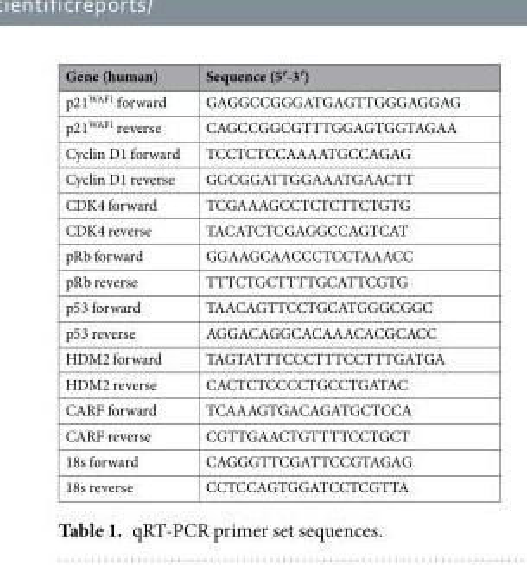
<table><thead><tr><td>Gene (human)</td><td>Sequence (5′-3′)</td></tr></thead><tbody><tr><td>p21<sup>WAF1</sup> forward</td><td>GAGGCCGGGATGAGTTGGGAGGAG</td></tr><tr><td>p21<sup>WAF1</sup> reverse</td><td>CAGCCGGCGTTTGGAGTGGTAGAA</td></tr><tr><td>Cyclin D1 forward</td><td>TCCTCTCCAAAATGCCAGAG</td></tr><tr><td>Cyclin D1 reverse</td><td>GGCGGATTGGAAATGAACTT</td></tr><tr><td>CDK4 forward</td><td>TCGAAAGCCTCTCTTCTGTG</td></tr><tr><td>CDK4 reverse</td><td>TACATCTCGAGGCCAGTCAT</td></tr><tr><td>pRb forward</td><td>GGAAGCAACCCTCCTAAACC</td></tr><tr><td>pRb reverse</td><td>TTTCTGCTTTTGCATTCGTG</td></tr><tr><td>p53 forward</td><td>TAACAGTTCCTGCATGGGCGGC</td></tr><tr><td>p53 reverse</td><td>AGGACAGGCACAAACACGCACC</td></tr><tr><td>HDM2 forward</td><td>TAGTATTTCCCTTTCCTTTGATGA</td></tr><tr><td>HDM2 reverse</td><td>CACTCTCCCCTGCCTGATAC</td></tr><tr><td>CARF forward</td><td>TCAAAGTGACAGATGCTCCA</td></tr><tr><td>CARF reverse</td><td>CGTTGAACTGTTTTCCTGCT</td></tr><tr><td>18s forward</td><td>CAGGGTTCGATTCCGTAGAG</td></tr><tr><td>18s reverse</td><td>CCTCCAGTGGATCCTCGTTA</td></tr></tbody></table>